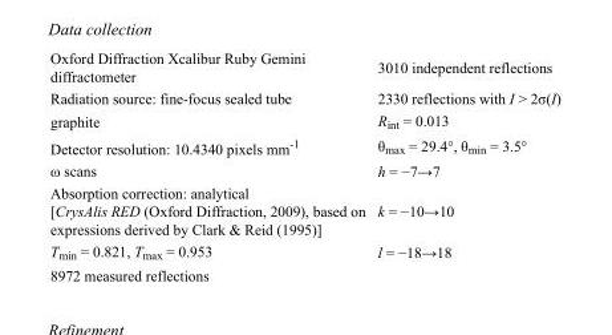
<table><tbody><tr><td>Oxford Diffraction Xcalibur Ruby Gemini diffractometer</td><td>3010 independent reflections</td></tr><tr><td>Radiation source: fine-focus sealed tube</td><td>2330 reflections with I &gt; 2σ(I)</td></tr><tr><td>graphite</td><td>R<sub>int</sub> = 0.013</td></tr><tr><td>Detector resolution: 10.4340 pixels mm<sup>-1</sup></td><td>θ<sub>max</sub> = 29.4°, θ<sub>min</sub> = 3.5°</td></tr><tr><td>ω scans</td><td>h = −7→7</td></tr><tr><td>Absorption correction: analytical [CrysAlis RED (Oxford Diffraction, 2009), based on expressions derived by Clark &amp; Reid (1995)]</td><td>k = −10→10</td></tr><tr><td>T<sub>min</sub> = 0.821, T<sub>max</sub> = 0.953</td><td>l = −18→18</td></tr><tr><td>8972 measured reflections</td><td></td></tr></tbody></table>